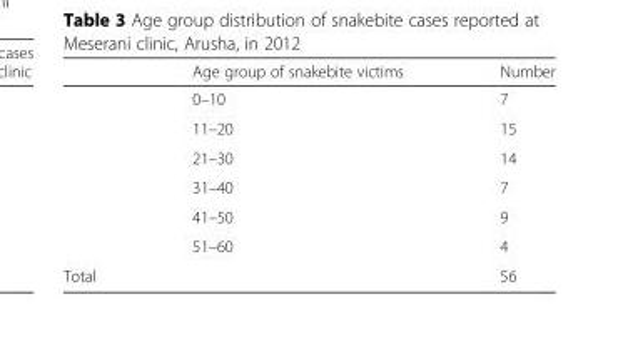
<table><thead><tr><td></td><td>Age group of snakebite victims</td><td>Number</td></tr></thead><tbody><tr><td></td><td>0–10</td><td>7</td></tr><tr><td></td><td>11–20</td><td>15</td></tr><tr><td></td><td>21–30</td><td>14</td></tr><tr><td></td><td>31–40</td><td>7</td></tr><tr><td></td><td>41–50</td><td>9</td></tr><tr><td></td><td>51–60</td><td>4</td></tr><tr><td>Total</td><td></td><td>56</td></tr></tbody></table>